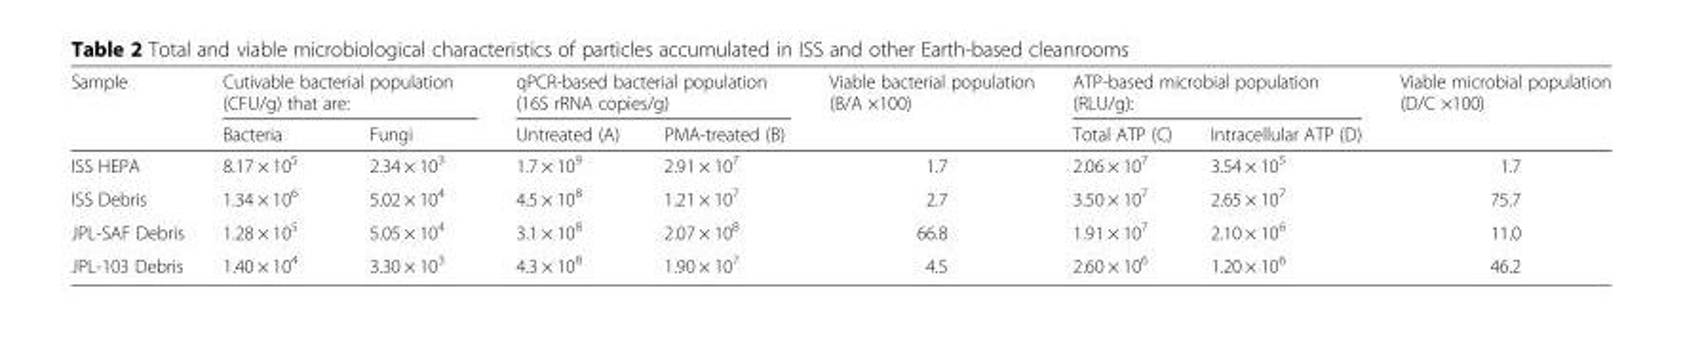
<table><thead><tr><td rowspan="2">Sample</td><td colspan="2">Cutivable bacterial population (CFU/g) that are:</td><td colspan="2">qPCR-based bacterial population (16S rRNA copies/g)</td><td rowspan="2">Viable bacterial population (B/A ×100)</td><td colspan="2">ATP-based microbial population (RLU/g):</td><td rowspan="2">Viable microbial population (D/C ×100)</td></tr><tr><td>Bacteria</td><td>Fungi</td><td>Untreated (A)</td><td>PMA-treated (B)</td><td>Total ATP (C)</td><td>Intracellular ATP (D)</td></tr></thead><tbody><tr><td>ISS HEPA</td><td>8.17 × 10<sup>5</sup></td><td>2.34 × 10<sup>3</sup></td><td>1.7 × 10<sup>9</sup></td><td>2.91 × 10<sup>7</sup></td><td>1.7</td><td>2.06 × 10<sup>7</sup></td><td>3.54 × 10<sup>5</sup></td><td>1.7</td></tr><tr><td>ISS Debris</td><td>1.34 × 10<sup>6</sup></td><td>5.02 × 10<sup>4</sup></td><td>4.5 × 10<sup>8</sup></td><td>1.21 × 10<sup>7</sup></td><td>2.7</td><td>3.50 × 10<sup>7</sup></td><td>2.65 × 10<sup>7</sup></td><td>75.7</td></tr><tr><td>JPL-SAF Debris</td><td>1.28 × 10<sup>5</sup></td><td>5.05 × 10<sup>4</sup></td><td>3.1 × 10<sup>8</sup></td><td>2.07 × 10<sup>8</sup></td><td>66.8</td><td>1.91 × 10<sup>7</sup></td><td>2.10 × 10<sup>6</sup></td><td>11.0</td></tr><tr><td>JPL-103 Debris</td><td>1.40 × 10<sup>4</sup></td><td>3.30 × 10<sup>3</sup></td><td>4.3 × 10<sup>8</sup></td><td>1.90 × 10<sup>7</sup></td><td>4.5</td><td>2.60 × 10<sup>6</sup></td><td>1.20 × 10<sup>6</sup></td><td>46.2</td></tr></tbody></table>